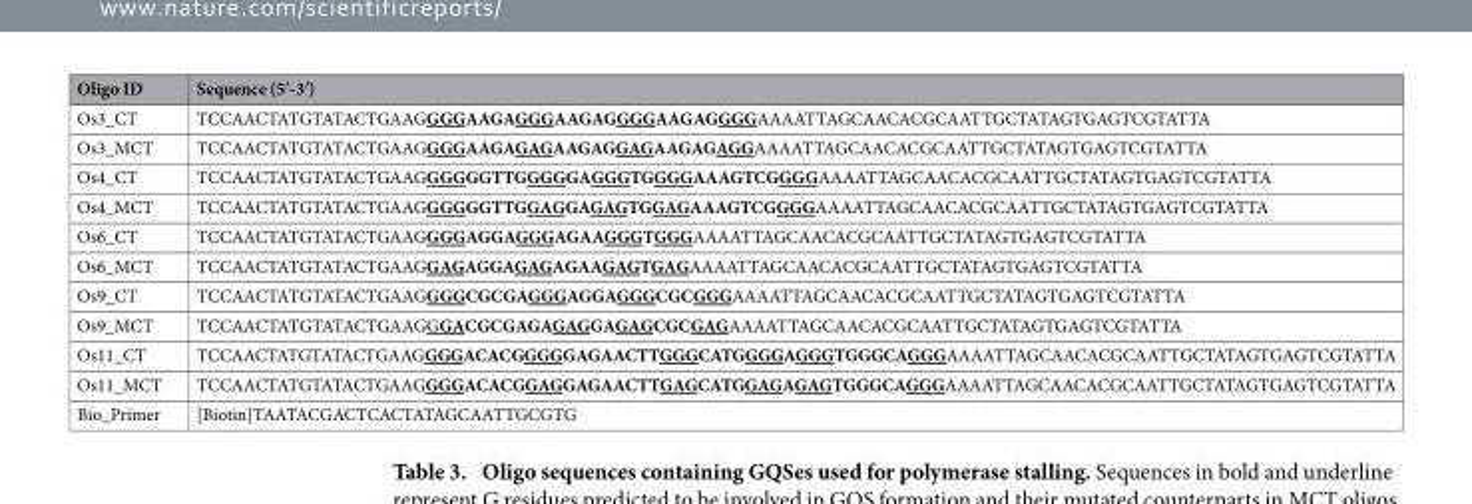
<table><thead><tr><td>Oligo ID</td><td>Sequence (5′ -3′ )</td></tr></thead><tbody><tr><td>Os3_CT</td><td>TCCAACTATGTATACTGAAGGGGAAGAGGGAAGAGGGGAAGAGGGGAAAATTAGCAACACGCAATTGCTATAGTGAGTCGTATTA</td></tr><tr><td>Os3_MCT</td><td>TCCAACTATGTATACTGAAGGGGAAGAGAGAAGAGGAGAAGAGAGGAAAATTAGCAACACGCAATTGCTATAGTGAGTCGTATTA</td></tr><tr><td>Os4_CT</td><td>TCCAACTATGTATACTGAAGGGGGGTTGGGGGAGGGTGGGGAAAGTCGGGGAAAATTAGCAACACGCAATTGCTATAGTGAGTCGTATTA</td></tr><tr><td>Os4_MCT</td><td>TCCAACTATGTATACTGAAGGGGGGTTGGAGGAGAGTGGAGAAAGTCGGGGAAAATTAGCAACACGCAATTGCTATAGTGAGTCGTATTA</td></tr><tr><td>Os6_CT</td><td>TCCAACTATGTATACTGAAGGGGAGGAGGGAGAAGGGTGGGAAAATTAGCAACACGCAATTGCTATAGTGAGTCGTATTA</td></tr><tr><td>Os6_MCT</td><td>TCCAACTATGTATACTGAAGGAGAGGAGAGAGAAGAGTGAGAAAATTAGCAACACGCAATTGCTATAGTGAGTCGTATTA</td></tr><tr><td>Os9_CT</td><td>TCCAACTATGTATACTGAAGGGGCGCGAGGGAGGAGGGCGCGGGAAAATTAGCAACACGCAATTGCTATAGTGAGTCGTATTA</td></tr><tr><td>Os9_MCT</td><td>TCCAACTATGTATACTGAAGGGACGCGAGAGAGGAGAGCGCGAGAAAATTAGCAACACGCAATTGCTATAGTGAGTCGTATTA</td></tr><tr><td>Os11_CT</td><td>TCCAACTATGTATACTGAAGGGGACACGGGGGAGAACTTGGGCATGGGGAGGGTGGGCAGGGAAAATTAGCAACACGCAATTGCTATAGTGAGTCGTATTA</td></tr><tr><td>Os11_MCT</td><td>TCCAACTATGTATACTGAAGGGGACACGGAGGAGAACTTGAGCATGGAGAGAGTGGGCAGGGAAAATTAGCAACACGCAATTGCTATAGTGAGTCGTATTA</td></tr><tr><td>Bio_Primer</td><td>[Biotin]TAATACGACTCACTATAGCAATTGCGTG</td></tr></tbody></table>